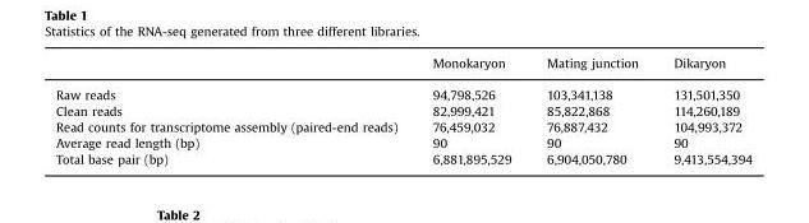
<table><thead><tr><td></td><td>Monokaryon</td><td>Mating junction</td><td>Dikaryon</td></tr></thead><tbody><tr><td>Raw reads</td><td>94,798,526</td><td>103,341,138</td><td>131,501,350</td></tr><tr><td>Clean reads</td><td>82,999,421</td><td>85,822,868</td><td>114,260,189</td></tr><tr><td>Read counts for transcriptome assembly (paired-end reads)</td><td>76,459,032</td><td>76,887,432</td><td>104,993,372</td></tr><tr><td>Average read length (bp)</td><td>90</td><td>90</td><td>90</td></tr><tr><td>Total base pair (bp)</td><td>6,881,895,529</td><td>6,904,050,780</td><td>9,413,554,394</td></tr></tbody></table>